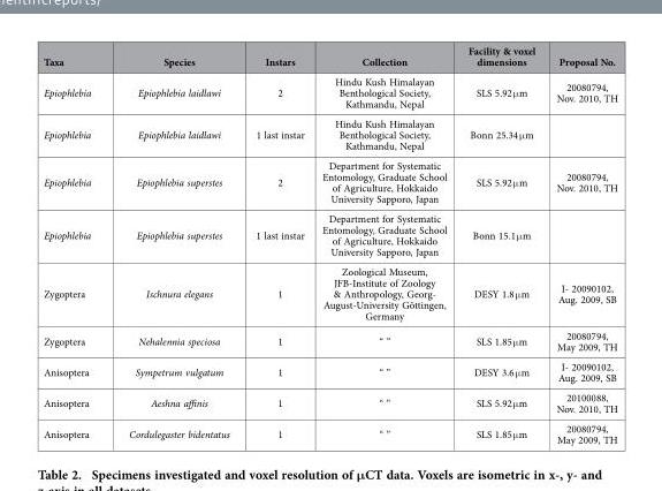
<table><thead><tr><td>Taxa</td><td>Species</td><td>Instars</td><td>Collection</td><td>Facility &amp; voxel dimensions</td><td>Proposal No.</td></tr></thead><tbody><tr><td>Epiophlebia</td><td>Epiophlebia laidlawi</td><td>2</td><td>Hindu Kush Himalayan Benthological Society, Kathmandu, Nepal</td><td>SLS 5.92 μ m</td><td>20080794, Nov. 2010, TH</td></tr><tr><td>Epiophlebia</td><td>Epiophlebia laidlawi</td><td>1 last instar</td><td>Hindu Kush Himalayan Benthological Society, Kathmandu, Nepal</td><td>Bonn 25.34 μ m</td><td></td></tr><tr><td>Epiophlebia</td><td>Epiophlebia superstes</td><td>2</td><td>Department for Systematic Entomology, Graduate School of Agriculture, Hokkaido University Sapporo, Japan</td><td>SLS 5.92 μ m</td><td>20080794, Nov. 2010, TH</td></tr><tr><td>Epiophlebia</td><td>Epiophlebia superstes</td><td>1 last instar</td><td>Department for Systematic Entomology, Graduate School of Agriculture, Hokkaido University Sapporo, Japan</td><td>Bonn 15.1 μ m</td><td></td></tr><tr><td>Zygoptera</td><td>Ischnura elegans</td><td>1</td><td>Zoological Museum, JFB-Institute of Zoology &amp; Anthropology, Georg- August-University Göttingen, Germany</td><td>DESY 1.8 μ m</td><td>I- 20090102, Aug. 2009, SB</td></tr><tr><td>Zygoptera</td><td>Nehalennia speciosa</td><td>1</td><td>“ ”</td><td>SLS 1.85 μ m</td><td>20080794, May 2009, TH</td></tr><tr><td>Anisoptera</td><td>Sympetrum vulgatum</td><td>1</td><td>“ ”</td><td>DESY 3.6 μ m</td><td>I- 20090102, Aug. 2009, SB</td></tr><tr><td>Anisoptera</td><td>Aeshna affinis</td><td>1</td><td>“ ”</td><td>SLS 5.92 μ m</td><td>20100088, Nov. 2010, TH</td></tr><tr><td>Anisoptera</td><td>Cordulegaster bidentatus</td><td>1</td><td>“ ”</td><td>SLS 1.85 μ m</td><td>20080794, May 2009, TH</td></tr></tbody></table>